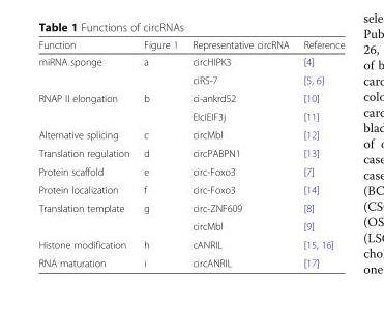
<table><thead><tr><td>Function</td><td>Figure 1</td><td>Representative circRNA</td><td>Reference</td></tr></thead><tbody><tr><td rowspan="2">miRNA sponge</td><td rowspan="2">a</td><td>circHIPK3</td><td>[4]</td></tr><tr><td>ciRS-7</td><td>[5, 6]</td></tr><tr><td rowspan="2">RNAP II elongation</td><td rowspan="2">b</td><td>ci-ankrd52</td><td>[10]</td></tr><tr><td>EIciEIF3j</td><td>[11]</td></tr><tr><td>Alternative splicing</td><td>c</td><td>circMbl</td><td>[12]</td></tr><tr><td>Translation regulation</td><td>d</td><td>circPABPN1</td><td>[13]</td></tr><tr><td>Protein scaffold</td><td>e</td><td>circ-Foxo3</td><td>[7]</td></tr><tr><td>Protein localization</td><td>f</td><td>circ-Foxo3</td><td>[14]</td></tr><tr><td rowspan="2">Translation template</td><td rowspan="2">g</td><td>circ-ZNF609</td><td>[8]</td></tr><tr><td>circMbl</td><td>[9]</td></tr><tr><td>Histone modification</td><td>h</td><td>cANRIL</td><td>[15, 16]</td></tr><tr><td>RNA maturation</td><td>i</td><td>circANRIL</td><td>[17]</td></tr></tbody></table>